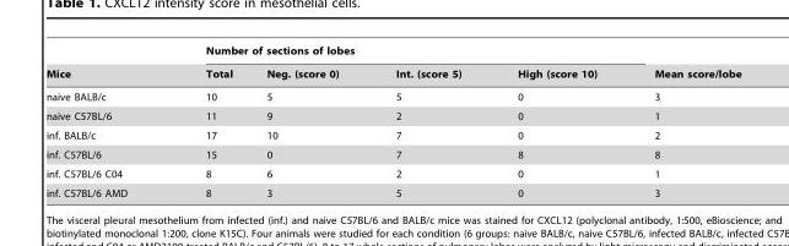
<table><thead><tr><td rowspan="2">Mice</td><td colspan="4">Number of sections of lobes</td><td rowspan="2">Mean score/lobe</td></tr><tr><td>Total</td><td>Neg. (score 0)</td><td>Int. (score 5)</td><td>High (score 10)</td></tr></thead><tbody><tr><td>naive BALB/c</td><td>10</td><td>5</td><td>5</td><td>0</td><td>3</td></tr><tr><td>naive C57BL/6</td><td>11</td><td>9</td><td>2</td><td>0</td><td>1</td></tr><tr><td>inf. BALB/c</td><td>17</td><td>10</td><td>7</td><td>0</td><td>2</td></tr><tr><td>inf. C57BL/6</td><td>15</td><td>0</td><td>7</td><td>8</td><td>8</td></tr><tr><td>inf. C57BL/6 C04</td><td>8</td><td>6</td><td>2</td><td>0</td><td>1</td></tr><tr><td>inf. C57BL/6 AMD</td><td>8</td><td>3</td><td>5</td><td>0</td><td>3</td></tr></tbody></table>